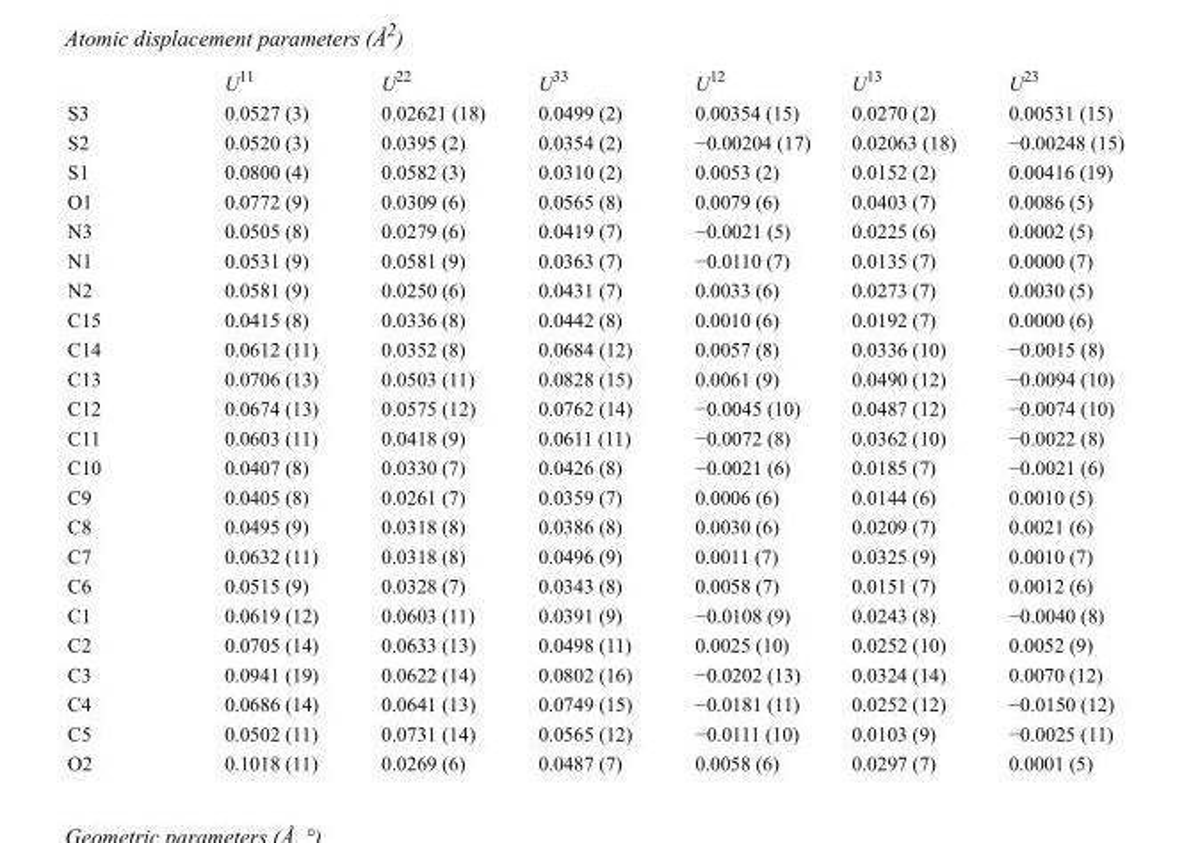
<table><thead><tr><td></td><td>U<sup>11</sup></td><td>U<sup>22</sup></td><td>U<sup>33</sup></td><td>U<sup>12</sup></td><td>U<sup>13</sup></td><td>U<sup>23</sup></td></tr></thead><tbody><tr><td>S3</td><td>0.0527 (3)</td><td>0.02621 (18)</td><td>0.0499 (2)</td><td>0.00354 (15)</td><td>0.0270 (2)</td><td>0.00531 (15)</td></tr><tr><td>S2</td><td>0.0520 (3)</td><td>0.0395 (2)</td><td>0.0354 (2)</td><td>−0.00204 (17)</td><td>0.02063 (18)</td><td>−0.00248 (15)</td></tr><tr><td>S1</td><td>0.0800 (4)</td><td>0.0582 (3)</td><td>0.0310 (2)</td><td>0.0053 (2)</td><td>0.0152 (2)</td><td>0.00416 (19)</td></tr><tr><td>O1</td><td>0.0772 (9)</td><td>0.0309 (6)</td><td>0.0565 (8)</td><td>0.0079 (6)</td><td>0.0403 (7)</td><td>0.0086 (5)</td></tr><tr><td>N3</td><td>0.0505 (8)</td><td>0.0279 (6)</td><td>0.0419 (7)</td><td>−0.0021 (5)</td><td>0.0225 (6)</td><td>0.0002 (5)</td></tr><tr><td>N1</td><td>0.0531 (9)</td><td>0.0581 (9)</td><td>0.0363 (7)</td><td>−0.0110 (7)</td><td>0.0135 (7)</td><td>0.0000 (7)</td></tr><tr><td>N2</td><td>0.0581 (9)</td><td>0.0250 (6)</td><td>0.0431 (7)</td><td>0.0033 (6)</td><td>0.0273 (7)</td><td>0.0030 (5)</td></tr><tr><td>C15</td><td>0.0415 (8)</td><td>0.0336 (8)</td><td>0.0442 (8)</td><td>0.0010 (6)</td><td>0.0192 (7)</td><td>0.0000 (6)</td></tr><tr><td>C14</td><td>0.0612 (11)</td><td>0.0352 (8)</td><td>0.0684 (12)</td><td>0.0057 (8)</td><td>0.0336 (10)</td><td>−0.0015 (8)</td></tr><tr><td>C13</td><td>0.0706 (13)</td><td>0.0503 (11)</td><td>0.0828 (15)</td><td>0.0061 (9)</td><td>0.0490 (12)</td><td>−0.0094 (10)</td></tr><tr><td>C12</td><td>0.0674 (13)</td><td>0.0575 (12)</td><td>0.0762 (14)</td><td>−0.0045 (10)</td><td>0.0487 (12)</td><td>−0.0074 (10)</td></tr><tr><td>C11</td><td>0.0603 (11)</td><td>0.0418 (9)</td><td>0.0611 (11)</td><td>−0.0072 (8)</td><td>0.0362 (10)</td><td>−0.0022 (8)</td></tr><tr><td>C10</td><td>0.0407 (8)</td><td>0.0330 (7)</td><td>0.0426 (8)</td><td>−0.0021 (6)</td><td>0.0185 (7)</td><td>−0.0021 (6)</td></tr><tr><td>C9</td><td>0.0405 (8)</td><td>0.0261 (7)</td><td>0.0359 (7)</td><td>0.0006 (6)</td><td>0.0144 (6)</td><td>0.0010 (5)</td></tr><tr><td>C8</td><td>0.0495 (9)</td><td>0.0318 (8)</td><td>0.0386 (8)</td><td>0.0030 (6)</td><td>0.0209 (7)</td><td>0.0021 (6)</td></tr><tr><td>C7</td><td>0.0632 (11)</td><td>0.0318 (8)</td><td>0.0496 (9)</td><td>0.0011 (7)</td><td>0.0325 (9)</td><td>0.0010 (7)</td></tr><tr><td>C6</td><td>0.0515 (9)</td><td>0.0328 (7)</td><td>0.0343 (8)</td><td>0.0058 (7)</td><td>0.0151 (7)</td><td>0.0012 (6)</td></tr><tr><td>C1</td><td>0.0619 (12)</td><td>0.0603 (11)</td><td>0.0391 (9)</td><td>−0.0108 (9)</td><td>0.0243 (8)</td><td>−0.0040 (8)</td></tr><tr><td>C2</td><td>0.0705 (14)</td><td>0.0633 (13)</td><td>0.0498 (11)</td><td>0.0025 (10)</td><td>0.0252 (10)</td><td>0.0052 (9)</td></tr><tr><td>C3</td><td>0.0941 (19)</td><td>0.0622 (14)</td><td>0.0802 (16)</td><td>−0.0202 (13)</td><td>0.0324 (14)</td><td>0.0070 (12)</td></tr><tr><td>C4</td><td>0.0686 (14)</td><td>0.0641 (13)</td><td>0.0749 (15)</td><td>−0.0181 (11)</td><td>0.0252 (12)</td><td>−0.0150 (12)</td></tr><tr><td>C5</td><td>0.0502 (11)</td><td>0.0731 (14)</td><td>0.0565 (12)</td><td>−0.0111 (10)</td><td>0.0103 (9)</td><td>−0.0025 (11)</td></tr><tr><td>O2</td><td>0.1018 (11)</td><td>0.0269 (6)</td><td>0.0487 (7)</td><td>0.0058 (6)</td><td>0.0297 (7)</td><td>0.0001 (5)</td></tr></tbody></table>